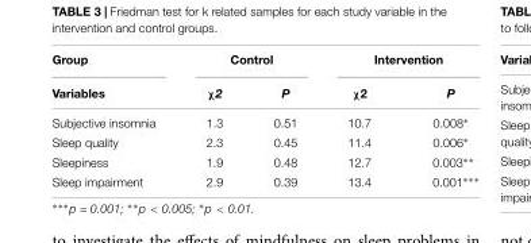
<table><thead><tr><td rowspan="2">Group Variables</td><td colspan="2">Control</td><td colspan="2">Intervention</td></tr><tr><td>χ2</td><td>P</td><td>χ2</td><td>P</td></tr></thead><tbody><tr><td>Subjective insomnia</td><td>1.3</td><td>0.51</td><td>10.7</td><td>0.008∗</td></tr><tr><td>Sleep quality</td><td>2.3</td><td>0.45</td><td>11.4</td><td>0.006∗</td></tr><tr><td>Sleepiness</td><td>1.9</td><td>0.48</td><td>12.7</td><td>0.003∗∗</td></tr><tr><td>Sleep impairment</td><td>2.9</td><td>0.39</td><td>13.4</td><td>0.001∗∗∗</td></tr></tbody></table>